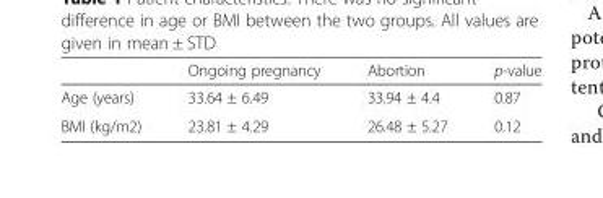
<table><thead><tr><td></td><td>Ongoing pregnancy</td><td>Abortion</td><td>p-value</td></tr></thead><tbody><tr><td>Age (years)</td><td>33.64 ± 6.49</td><td>33.94 ± 4.4</td><td>0.87</td></tr><tr><td>BMI (kg/m2)</td><td>23.81 ± 4.29</td><td>26.48 ± 5.27</td><td>0.12</td></tr></tbody></table>